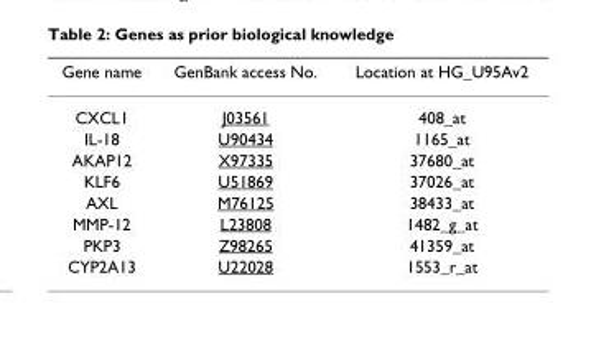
<table><thead><tr><td>Gene name</td><td>GenBank access No.</td><td>Location at HG_U95Av2</td></tr></thead><tbody><tr><td>CXCL1</td><td>J03561</td><td>408_at</td></tr><tr><td>IL-18</td><td>U90434</td><td>1165_at</td></tr><tr><td>AKAP12</td><td>X97335</td><td>37680_at</td></tr><tr><td>KLF6</td><td>U51869</td><td>37026_at</td></tr><tr><td>AXL</td><td>M76125</td><td>38433_at</td></tr><tr><td>MMP-12</td><td>L23808</td><td>1482_g_at</td></tr><tr><td>PKP3</td><td>Z98265</td><td>41359_at</td></tr><tr><td>CYP2A13</td><td>U22028</td><td>1553_r_at</td></tr></tbody></table>